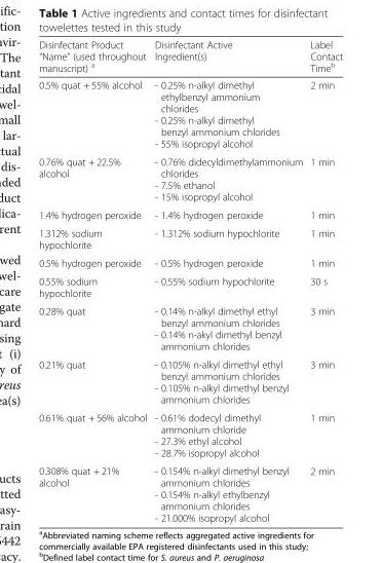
<table><thead><tr><td>Disinfectant Product “Name” (used throughout manuscript) <sup>a</sup></td><td>Disinfectant Active Ingredient(s)</td><td>Label Contact Time<sup>b</sup></td></tr></thead><tbody><tr><td>0.5% quat + 55% alcohol</td><td>- 0.25% n-alkyl dimethyl ethylbenzyl ammonium chlorides - 0.25% n-alkyl dimethyl benzyl ammonium chlorides - 55% isopropyl alcohol</td><td>2 min</td></tr><tr><td>0.76% quat + 22.5% alcohol</td><td>- 0.76% didecyldimethylammonium chlorides - 7.5% ethanol - 15% isopropyl alcohol</td><td>1 min</td></tr><tr><td>1.4% hydrogen peroxide</td><td>- 1.4% hydrogen peroxide</td><td>1 min</td></tr><tr><td>1.312% sodium hypochlorite</td><td>- 1.312% sodium hypochlorite</td><td>1 min</td></tr><tr><td>0.5% hydrogen peroxide</td><td>- 0.5% hydrogen peroxide</td><td>1 min</td></tr><tr><td>0.55% sodium hypochlorite</td><td>- 0.55% sodium hypochlorite</td><td>30 s</td></tr><tr><td>0.28% quat</td><td>- 0.14% n-alkyl dimethyl ethyl benzyl ammonium chlorides - 0.14% n-akyl dimethyl benzyl ammonium chlorides</td><td>3 min</td></tr><tr><td>0.21% quat</td><td>- 0.105% n-alkyl dimethyl ethyl benzyl ammonium chlorides - 0.105% n-alkyl dimethyl benzyl ammonium chlorides</td><td>3 min</td></tr><tr><td>0.61% quat + 56% alcohol</td><td>- 0.61% dodecyl dimethyl ammonium chloride - 27.3% ethyl alcohol - 28.7% isopropyl alcohol</td><td>1 min</td></tr><tr><td>0.308% quat + 21% alcohol</td><td>- 0.154% n-alkyl dimethyl benzyl ammonium chlorides - 0.154% n-alkyl ethylbenzyl ammonium chlorides - 21.000% isopropyl alcohol</td><td>2 min</td></tr></tbody></table>